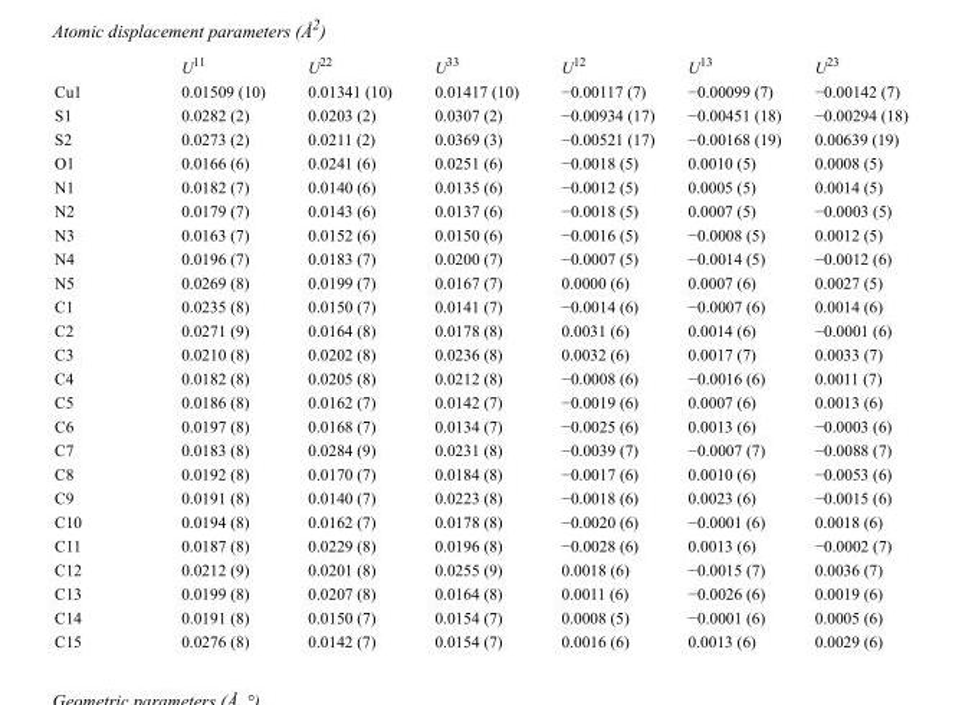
<table><thead><tr><td></td><td>U<sup>11</sup></td><td>U<sup>22</sup></td><td>U<sup>33</sup></td><td>U<sup>12</sup></td><td>U<sup>13</sup></td><td>U<sup>23</sup></td></tr></thead><tbody><tr><td>Cu1</td><td>0.01509 (10)</td><td>0.01341 (10)</td><td>0.01417 (10)</td><td>−0.00117 (7)</td><td>−0.00099 (7)</td><td>−0.00142 (7)</td></tr><tr><td>S1</td><td>0.0282 (2)</td><td>0.0203 (2)</td><td>0.0307 (2)</td><td>−0.00934 (17)</td><td>−0.00451 (18)</td><td>−0.00294 (18)</td></tr><tr><td>S2</td><td>0.0273 (2)</td><td>0.0211 (2)</td><td>0.0369 (3)</td><td>−0.00521 (17)</td><td>−0.00168 (19)</td><td>0.00639 (19)</td></tr><tr><td>O1</td><td>0.0166 (6)</td><td>0.0241 (6)</td><td>0.0251 (6)</td><td>−0.0018 (5)</td><td>0.0010 (5)</td><td>0.0008 (5)</td></tr><tr><td>N1</td><td>0.0182 (7)</td><td>0.0140 (6)</td><td>0.0135 (6)</td><td>−0.0012 (5)</td><td>0.0005 (5)</td><td>0.0014 (5)</td></tr><tr><td>N2</td><td>0.0179 (7)</td><td>0.0143 (6)</td><td>0.0137 (6)</td><td>−0.0018 (5)</td><td>0.0007 (5)</td><td>−0.0003 (5)</td></tr><tr><td>N3</td><td>0.0163 (7)</td><td>0.0152 (6)</td><td>0.0150 (6)</td><td>−0.0016 (5)</td><td>−0.0008 (5)</td><td>0.0012 (5)</td></tr><tr><td>N4</td><td>0.0196 (7)</td><td>0.0183 (7)</td><td>0.0200 (7)</td><td>−0.0007 (5)</td><td>−0.0014 (5)</td><td>−0.0012 (6)</td></tr><tr><td>N5</td><td>0.0269 (8)</td><td>0.0199 (7)</td><td>0.0167 (7)</td><td>0.0000 (6)</td><td>0.0007 (6)</td><td>0.0027 (5)</td></tr><tr><td>C1</td><td>0.0235 (8)</td><td>0.0150 (7)</td><td>0.0141 (7)</td><td>−0.0014 (6)</td><td>−0.0007 (6)</td><td>0.0014 (6)</td></tr><tr><td>C2</td><td>0.0271 (9)</td><td>0.0164 (8)</td><td>0.0178 (8)</td><td>0.0031 (6)</td><td>0.0014 (6)</td><td>−0.0001 (6)</td></tr><tr><td>C3</td><td>0.0210 (8)</td><td>0.0202 (8)</td><td>0.0236 (8)</td><td>0.0032 (6)</td><td>0.0017 (7)</td><td>0.0033 (7)</td></tr><tr><td>C4</td><td>0.0182 (8)</td><td>0.0205 (8)</td><td>0.0212 (8)</td><td>−0.0008 (6)</td><td>−0.0016 (6)</td><td>0.0011 (7)</td></tr><tr><td>C5</td><td>0.0186 (8)</td><td>0.0162 (7)</td><td>0.0142 (7)</td><td>−0.0019 (6)</td><td>0.0007 (6)</td><td>0.0013 (6)</td></tr><tr><td>C6</td><td>0.0197 (8)</td><td>0.0168 (7)</td><td>0.0134 (7)</td><td>−0.0025 (6)</td><td>0.0013 (6)</td><td>−0.0003 (6)</td></tr><tr><td>C7</td><td>0.0183 (8)</td><td>0.0284 (9)</td><td>0.0231 (8)</td><td>−0.0039 (7)</td><td>−0.0007 (7)</td><td>−0.0088 (7)</td></tr><tr><td>C8</td><td>0.0192 (8)</td><td>0.0170 (7)</td><td>0.0184 (8)</td><td>−0.0017 (6)</td><td>0.0010 (6)</td><td>−0.0053 (6)</td></tr><tr><td>C9</td><td>0.0191 (8)</td><td>0.0140 (7)</td><td>0.0223 (8)</td><td>−0.0018 (6)</td><td>0.0023 (6)</td><td>−0.0015 (6)</td></tr><tr><td>C10</td><td>0.0194 (8)</td><td>0.0162 (7)</td><td>0.0178 (8)</td><td>−0.0020 (6)</td><td>−0.0001 (6)</td><td>0.0018 (6)</td></tr><tr><td>C11</td><td>0.0187 (8)</td><td>0.0229 (8)</td><td>0.0196 (8)</td><td>−0.0028 (6)</td><td>0.0013 (6)</td><td>−0.0002 (7)</td></tr><tr><td>C12</td><td>0.0212 (9)</td><td>0.0201 (8)</td><td>0.0255 (9)</td><td>0.0018 (6)</td><td>−0.0015 (7)</td><td>0.0036 (7)</td></tr><tr><td>C13</td><td>0.0199 (8)</td><td>0.0207 (8)</td><td>0.0164 (8)</td><td>0.0011 (6)</td><td>−0.0026 (6)</td><td>0.0019 (6)</td></tr><tr><td>C14</td><td>0.0191 (8)</td><td>0.0150 (7)</td><td>0.0154 (7)</td><td>0.0008 (5)</td><td>−0.0001 (6)</td><td>0.0005 (6)</td></tr><tr><td>C15</td><td>0.0276 (8)</td><td>0.0142 (7)</td><td>0.0154 (7)</td><td>0.0016 (6)</td><td>0.0013 (6)</td><td>0.0029 (6)</td></tr></tbody></table>